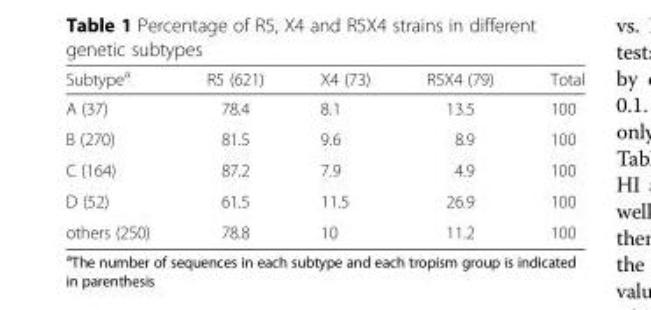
<table><thead><tr><td>Subtype<sup>a</sup></td><td>R5 (621)</td><td>X4 (73)</td><td>R5X4 (79)</td><td>Total</td></tr></thead><tbody><tr><td>A (37)</td><td>78.4</td><td>8.1</td><td>13.5</td><td>100</td></tr><tr><td>B (270)</td><td>81.5</td><td>9.6</td><td>8.9</td><td>100</td></tr><tr><td>C (164)</td><td>87.2</td><td>7.9</td><td>4.9</td><td>100</td></tr><tr><td>D (52)</td><td>61.5</td><td>11.5</td><td>26.9</td><td>100</td></tr><tr><td>others (250)</td><td>78.8</td><td>10</td><td>11.2</td><td>100</td></tr></tbody></table>